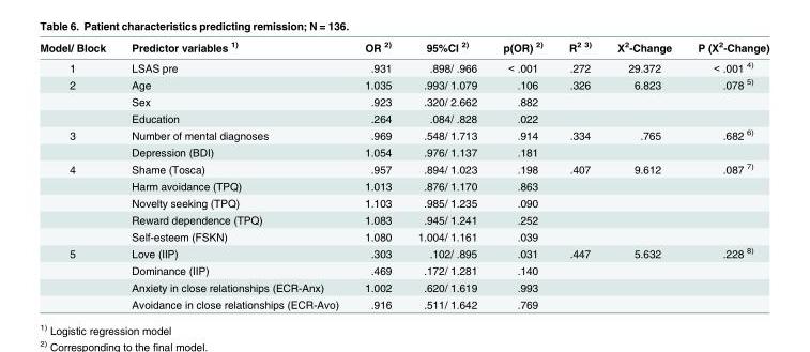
<table><thead><tr><td>Model/ Block</td><td>Predictor variables <sup>1)</sup></td><td>OR <sup>2)</sup></td><td>95%CI <sup>2)</sup></td><td>p(OR) <sup>2)</sup></td><td>R<sup>2 3)</sup></td><td>X<sup>2</sup>-Change</td><td>P (X<sup>2</sup>-Change)</td></tr></thead><tbody><tr><td>1</td><td>LSAS pre</td><td>.931</td><td>.898/ .966</td><td>&lt; .001</td><td>.272</td><td>29.372</td><td>&lt; .001 <sup>4)</sup></td></tr><tr><td rowspan="3">2</td><td>Age</td><td>1.035</td><td>.993/ 1.079</td><td>.106</td><td>.326</td><td>6.823</td><td>.078 <sup>5)</sup></td></tr><tr><td>Sex</td><td>.923</td><td>.320/ 2.662</td><td>.882</td><td></td><td></td><td></td></tr><tr><td>Education</td><td>.264</td><td>.084/ .828</td><td>.022</td><td></td><td></td><td></td></tr><tr><td rowspan="2">3</td><td>Number of mental diagnoses</td><td>.969</td><td>.548/ 1.713</td><td>.914</td><td>.334</td><td>.765</td><td>.682 <sup>6)</sup></td></tr><tr><td>Depression (BDI)</td><td>1.054</td><td>.976/ 1.137</td><td>.181</td><td></td><td></td><td></td></tr><tr><td rowspan="5">4</td><td>Shame (Tosca)</td><td>.957</td><td>.894/ 1.023</td><td>.198</td><td>.407</td><td>9.612</td><td>.087 <sup>7)</sup></td></tr><tr><td>Harm avoidance (TPQ)</td><td>1.013</td><td>.876/ 1.170</td><td>.863</td><td></td><td></td><td></td></tr><tr><td>Novelty seeking (TPQ)</td><td>1.103</td><td>.985/ 1.235</td><td>.090</td><td></td><td></td><td></td></tr><tr><td>Reward dependence (TPQ)</td><td>1.083</td><td>.945/ 1.241</td><td>.252</td><td></td><td></td><td></td></tr><tr><td>Self-esteem (FSKN)</td><td>1.080</td><td>1.004/ 1.161</td><td>.039</td><td></td><td></td><td></td></tr><tr><td rowspan="4">5</td><td>Love (IIP)</td><td>.303</td><td>.102/ .895</td><td>.031</td><td>.447</td><td>5.632</td><td>.228 <sup>8)</sup></td></tr><tr><td>Dominance (IIP)</td><td>.469</td><td>.172/ 1.281</td><td>.140</td><td></td><td></td><td></td></tr><tr><td>Anxiety in close relationships (ECR-Anx)</td><td>1.002</td><td>.620/ 1.619</td><td>.993</td><td></td><td></td><td></td></tr><tr><td>Avoidance in close relationships (ECR-Avo)</td><td>.916</td><td>.511/ 1.642</td><td>.769</td><td></td><td></td><td></td></tr></tbody></table>